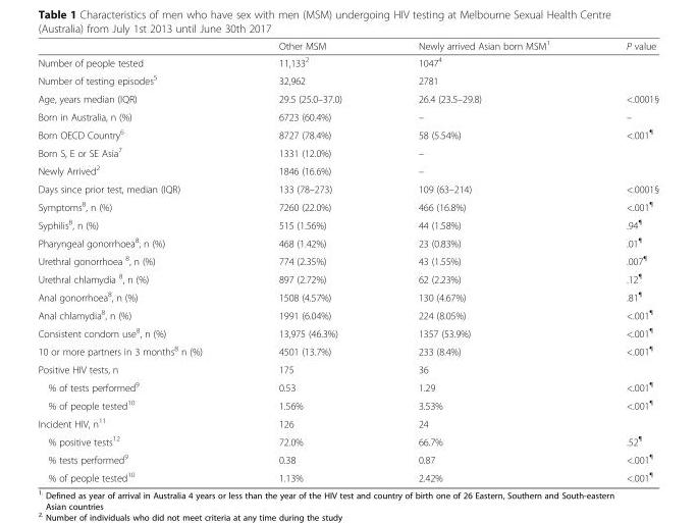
<table><thead><tr><td></td><td>Other MSM</td><td>Newly arrived Asian born MSM<sup>1</sup></td><td>P value</td></tr></thead><tbody><tr><td>Number of people tested</td><td>11,133<sup>2</sup></td><td>1047<sup>4</sup></td><td></td></tr><tr><td>Number of testing episodes<sup>5</sup></td><td>32,962</td><td>2781</td><td></td></tr><tr><td>Age, years median (IQR)</td><td>29.5 (25.0–37.0)</td><td>26.4 (23.5–29.8)</td><td>&lt;.0001§</td></tr><tr><td>Born in Australia, n (%)</td><td>6723 (60.4%)</td><td>–</td><td>–</td></tr><tr><td>Born OECD Country<sup>6</sup></td><td>8727 (78.4%)</td><td>58 (5.54%)</td><td>&lt;.001<sup>¶</sup></td></tr><tr><td>Born S, E or SE Asia<sup>7</sup></td><td>1331 (12.0%)</td><td>–</td><td></td></tr><tr><td>Newly Arrived<sup>2</sup></td><td>1846 (16.6%)</td><td>–</td><td></td></tr><tr><td>Days since prior test, median (IQR)</td><td>133 (78–273)</td><td>109 (63–214)</td><td>&lt;.0001§</td></tr><tr><td>Symptoms<sup>8</sup>, n (%)</td><td>7260 (22.0%)</td><td>466 (16.8%)</td><td>&lt;.001<sup>¶</sup></td></tr><tr><td>Syphilis<sup>8</sup>, n (%)</td><td>515 (1.56%)</td><td>44 (1.58%)</td><td>.94<sup>¶</sup></td></tr><tr><td>Pharyngeal gonorrhoea<sup>8</sup>, n (%)</td><td>468 (1.42%)</td><td>23 (0.83%)</td><td>.01<sup>¶</sup></td></tr><tr><td>Urethral gonorrhoea <sup>8</sup>, n (%)</td><td>774 (2.35%)</td><td>43 (1.55%)</td><td>.007<sup>¶</sup></td></tr><tr><td>Urethral chlamydia <sup>8</sup>, n (%)</td><td>897 (2.72%)</td><td>62 (2.23%)</td><td>.12<sup>¶</sup></td></tr><tr><td>Anal gonorrhoea<sup>8</sup>, n (%)</td><td>1508 (4.57%)</td><td>130 (4.67%)</td><td>.81<sup>¶</sup></td></tr><tr><td>Anal chlamydia<sup>8</sup>, n (%)</td><td>1991 (6.04%)</td><td>224 (8.05%)</td><td>&lt;.001<sup>¶</sup></td></tr><tr><td>Consistent condom use<sup>8</sup>, n (%)</td><td>13,975 (46.3%)</td><td>1357 (53.9%)</td><td>&lt;.001<sup>¶</sup></td></tr><tr><td>10 or more partners in 3 months<sup>8</sup> n (%)</td><td>4501 (13.7%)</td><td>233 (8.4%)</td><td>&lt;.001<sup>¶</sup></td></tr><tr><td>Positive HIV tests, n</td><td>175</td><td>36</td><td></td></tr><tr><td>% of tests performed<sup>9</sup></td><td>0.53</td><td>1.29</td><td>&lt;.001<sup>¶</sup></td></tr><tr><td>% of people tested<sup>10</sup></td><td>1.56%</td><td>3.53%</td><td>&lt;.001<sup>¶</sup></td></tr><tr><td>Incident HIV, n<sup>11</sup></td><td>126</td><td>24</td><td></td></tr><tr><td>% positive tests<sup>12</sup></td><td>72.0%</td><td>66.7%</td><td>.52<sup>¶</sup></td></tr><tr><td>% tests performed<sup>9</sup></td><td>0.38</td><td>0.87</td><td>&lt;.001<sup>¶</sup></td></tr><tr><td>% of people tested<sup>10</sup></td><td>1.13%</td><td>2.42%</td><td>&lt;.001<sup>¶</sup></td></tr></tbody></table>